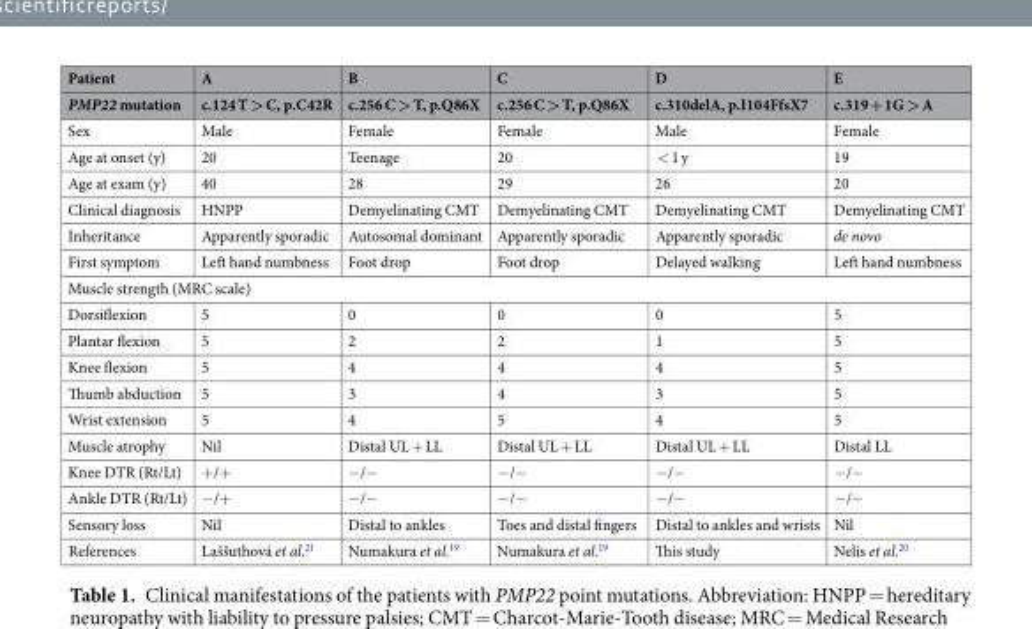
<table><thead><tr><td rowspan="2">Patient PMP22 mutation</td><td rowspan="2">A c.124 T &gt; C, p.C42R</td><td rowspan="2">B c.256 C &gt; T, p.Q86X</td><td rowspan="2">C c.256 C &gt; T, p.Q86X</td><td rowspan="2">D c.310delA, p.I104FfsX7</td><td rowspan="2">E c.319 + 1G &gt; A</td></tr><tr></tr></thead><tbody><tr><td>Sex</td><td>Male</td><td>Female</td><td>Female</td><td>Male</td><td>Female</td></tr><tr><td>Age at onset (y)</td><td>20</td><td>Teenage</td><td>20</td><td>&lt; 1 y</td><td>19</td></tr><tr><td>Age at exam (y)</td><td>40</td><td>28</td><td>29</td><td>26</td><td>20</td></tr><tr><td>Clinical diagnosis</td><td>HNPP</td><td>Demyelinating CMT</td><td>Demyelinating CMT</td><td>Demyelinating CMT</td><td>Demyelinating CMT</td></tr><tr><td>Inheritance</td><td>Apparently sporadic</td><td>Autosomal dominant</td><td>Apparently sporadic</td><td>Apparently sporadic</td><td>de novo</td></tr><tr><td>First symptom</td><td>Left hand numbness</td><td>Foot drop</td><td>Foot drop</td><td>Delayed walking</td><td>Left hand numbness</td></tr><tr><td colspan="6">Muscle strength (MRC scale)</td></tr><tr><td>Dorsiflexion</td><td>5</td><td>0</td><td>0</td><td>0</td><td>5</td></tr><tr><td>Plantar flexion</td><td>5</td><td>2</td><td>2</td><td>1</td><td>5</td></tr><tr><td>Knee flexion</td><td>5</td><td>4</td><td>4</td><td>4</td><td>5</td></tr><tr><td>Thumb abduction</td><td>5</td><td>3</td><td>4</td><td>3</td><td>5</td></tr><tr><td>Wrist extension</td><td>5</td><td>4</td><td>5</td><td>4</td><td>5</td></tr><tr><td>Muscle atrophy</td><td>Nil</td><td>Distal UL + LL</td><td>Distal UL + LL</td><td>Distal UL + LL</td><td>Distal LL</td></tr><tr><td>Knee DTR (Rt/Lt)</td><td>+/+</td><td>−/−</td><td>−/−</td><td>−/−</td><td>−/−</td></tr><tr><td>Ankle DTR (Rt/Lt)</td><td>−/+</td><td>−/−</td><td>−/−</td><td>−/−</td><td>−/−</td></tr><tr><td>Sensory loss</td><td>Nil</td><td>Distal to ankles</td><td>Toes and distal fingers</td><td>Distal to ankles and wrists</td><td>Nil</td></tr><tr><td>References</td><td>Laššuthová et al.<sup>21</sup></td><td>Numakura et al.<sup>19</sup></td><td>Numakura et al.<sup>19</sup></td><td>This study</td><td>Nelis et al.<sup>20</sup></td></tr></tbody></table>